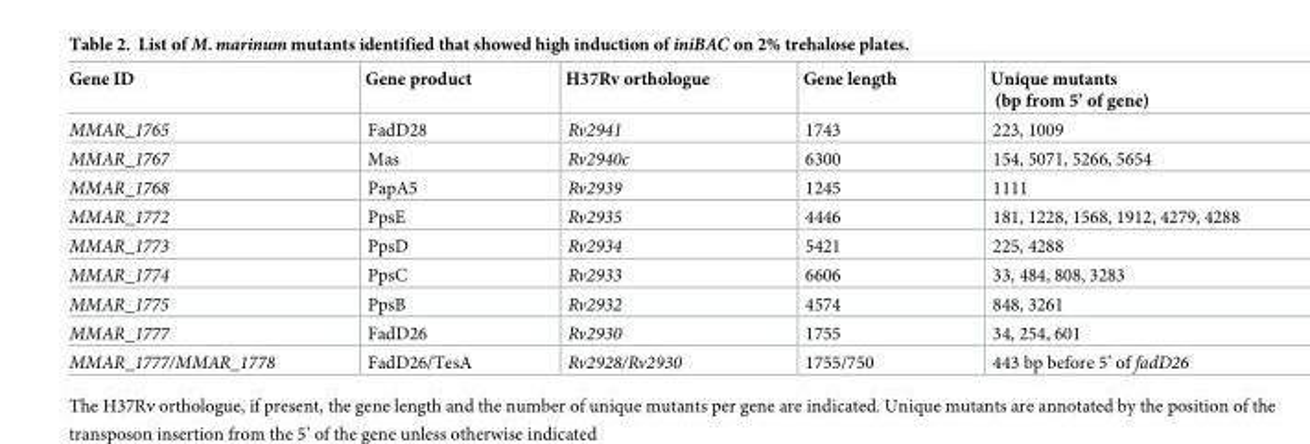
<table><thead><tr><td>Gene ID</td><td>Gene product</td><td>H37Rv orthologue</td><td>Gene length</td><td>Unique mutants (bp from 5’ of gene)</td></tr></thead><tbody><tr><td>MMAR_1765</td><td>FadD28</td><td>Rv2941</td><td>1743</td><td>223, 1009</td></tr><tr><td>MMAR_1767</td><td>Mas</td><td>Rv2940c</td><td>6300</td><td>154, 5071, 5266, 5654</td></tr><tr><td>MMAR_1768</td><td>PapA5</td><td>Rv2939</td><td>1245</td><td>1111</td></tr><tr><td>MMAR_1772</td><td>PpsE</td><td>Rv2935</td><td>4446</td><td>181, 1228, 1568, 1912, 4279, 4288</td></tr><tr><td>MMAR_1773</td><td>PpsD</td><td>Rv2934</td><td>5421</td><td>225, 4288</td></tr><tr><td>MMAR_1774</td><td>PpsC</td><td>Rv2933</td><td>6606</td><td>33, 484, 808, 3283</td></tr><tr><td>MMAR_1775</td><td>PpsB</td><td>Rv2932</td><td>4574</td><td>848, 3261</td></tr><tr><td>MMAR_1777</td><td>FadD26</td><td>Rv2930</td><td>1755</td><td>34, 254, 601</td></tr><tr><td>MMAR_1777/MMAR_1778</td><td>FadD26/TesA</td><td>Rv2928/Rv2930</td><td>1755/750</td><td>443 bp before 5’ of fadD26</td></tr></tbody></table>